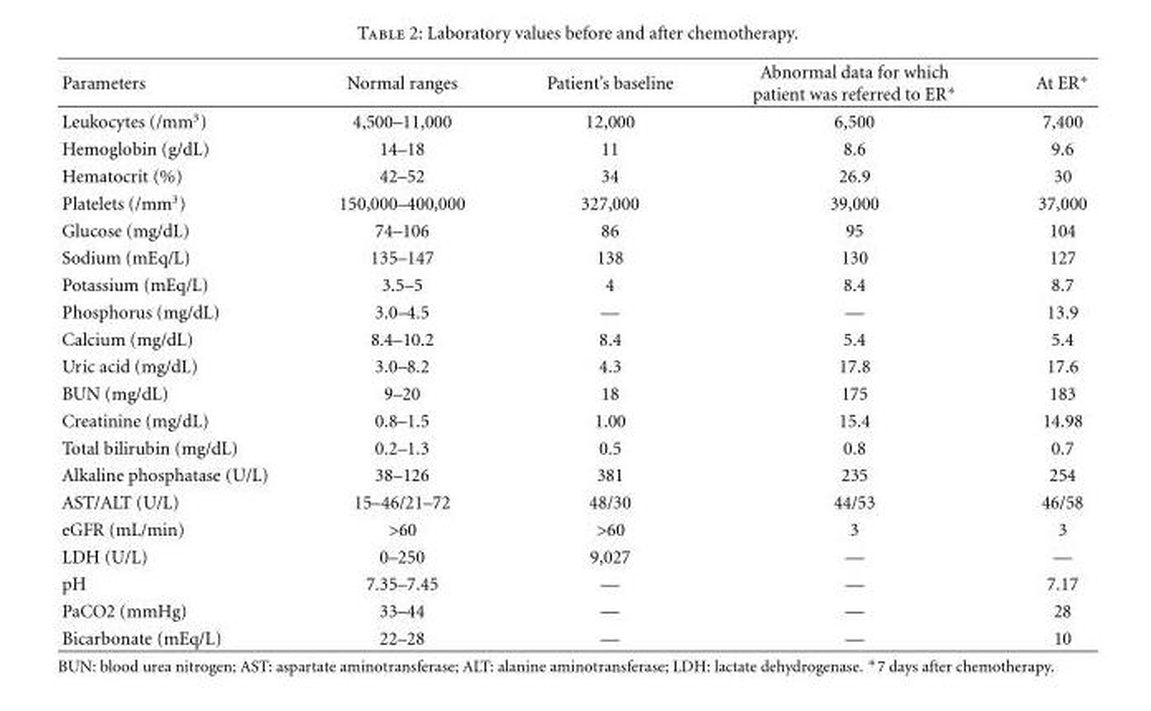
<table><thead><tr><td>Parameters</td><td>Normal ranges</td><td>Patient’s baseline</td><td>Abnormal data for which patient was referred to ER∗</td><td>At ER∗</td></tr></thead><tbody><tr><td>Leukocytes (/mm<sup>3</sup>)</td><td>4,500–11,000</td><td>12,000</td><td>6,500</td><td>7,400</td></tr><tr><td>Hemoglobin (g/dL)</td><td>14–18</td><td>11</td><td>8.6</td><td>9.6</td></tr><tr><td>Hematocrit (%)</td><td>42–52</td><td>34</td><td>26.9</td><td>30</td></tr><tr><td>Platelets (/mm<sup>3</sup>)</td><td>150,000–400,000</td><td>327,000</td><td>39,000</td><td>37,000</td></tr><tr><td>Glucose (mg/dL)</td><td>74–106</td><td>86</td><td>95</td><td>104</td></tr><tr><td>Sodium (mEq/L)</td><td>135–147</td><td>138</td><td>130</td><td>127</td></tr><tr><td>Potassium (mEq/L)</td><td>3.5–5</td><td>4</td><td>8.4</td><td>8.7</td></tr><tr><td>Phosphorus (mg/dL)</td><td>3.0–4.5</td><td>—</td><td>—</td><td>13.9</td></tr><tr><td>Calcium (mg/dL)</td><td>8.4–10.2</td><td>8.4</td><td>5.4</td><td>5.4</td></tr><tr><td>Uric acid (mg/dL)</td><td>3.0–8.2</td><td>4.3</td><td>17.8</td><td>17.6</td></tr><tr><td>BUN (mg/dL)</td><td>9–20</td><td>18</td><td>175</td><td>183</td></tr><tr><td>Creatinine (mg/dL)</td><td>0.8–1.5</td><td>1.00</td><td>15.4</td><td>14.98</td></tr><tr><td>Total bilirubin (mg/dL)</td><td>0.2–1.3</td><td>0.5</td><td>0.8</td><td>0.7</td></tr><tr><td>Alkaline phosphatase (U/L)</td><td>38–126</td><td>381</td><td>235</td><td>254</td></tr><tr><td>AST/ALT (U/L)</td><td>15–46/21–72</td><td>48/30</td><td>44/53</td><td>46/58</td></tr><tr><td>eGFR (mL/min)</td><td>&gt;60</td><td>&gt;60</td><td>3</td><td>3</td></tr><tr><td>LDH (U/L)</td><td>0–250</td><td>9,027</td><td>—</td><td>—</td></tr><tr><td>pH</td><td>7.35–7.45</td><td>—</td><td>—</td><td>7.17</td></tr><tr><td>PaCO2 (mmHg)</td><td>33–44</td><td>—</td><td>—</td><td>28</td></tr><tr><td>Bicarbonate (mEq/L)</td><td>22–28</td><td>—</td><td>—</td><td>10</td></tr></tbody></table>